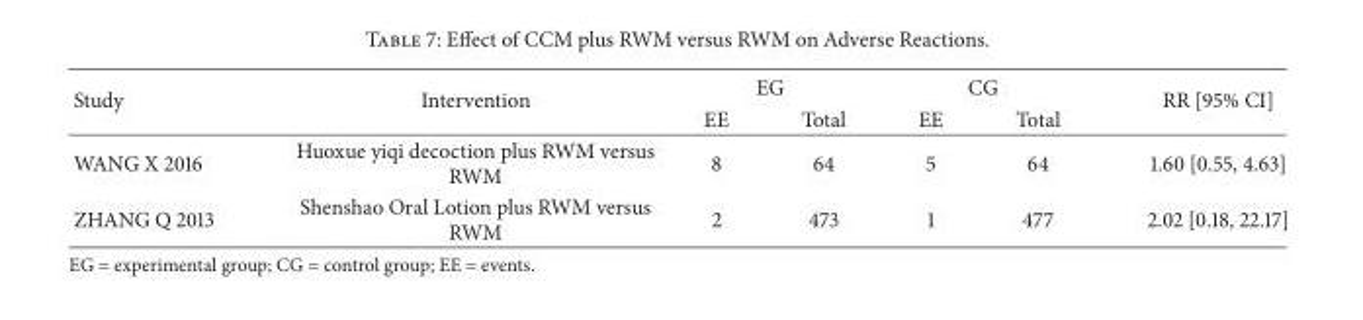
<table><thead><tr><td rowspan="2">Study</td><td rowspan="2">Intervention</td><td colspan="2">EG</td><td colspan="2">CG</td><td rowspan="2">RR [95% CI]</td></tr><tr><td>EE</td><td>Total</td><td>EE</td><td>Total</td></tr></thead><tbody><tr><td>WANG X 2016</td><td>Huoxue yiqi decoction plus RWM versus RWM</td><td>8</td><td>64</td><td>5</td><td>64</td><td>1.60 [0.55, 4.63]</td></tr><tr><td>ZHANG Q 2013</td><td>Shenshao Oral Lotion plus RWM versus RWM</td><td>2</td><td>473</td><td>1</td><td>477</td><td>2.02 [0.18, 22.17]</td></tr></tbody></table>